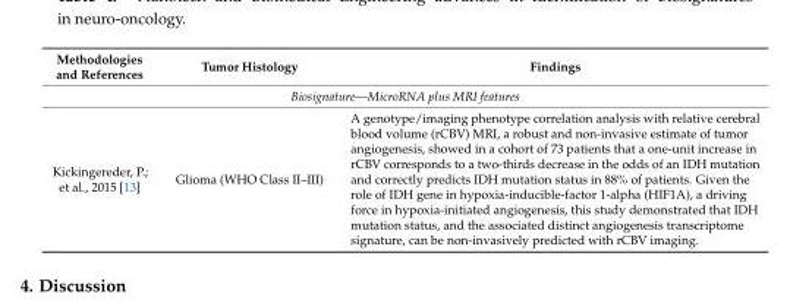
<table><thead><tr><td>Methodologies and References</td><td>Tumor Histology</td><td>Findings</td></tr></thead><tbody><tr><td colspan="3">Biosignature—MicroRNA plus MRI features</td></tr><tr><td>Kickingereder, P.; et al., 2015 [13]</td><td>Glioma (WHO Class II–III)</td><td>A genotype/imaging phenotype correlation analysis with relative cerebral blood volume (rCBV) MRI, a robust and non-invasive estimate of tumor angiogenesis, showed in a cohort of 73 patients that a one-unit increase in rCBV corresponds to a two-thirds decrease in the odds of an IDH mutation and correctly predicts IDH mutation status in 88% of patients. Given the role of IDH gene in hypoxia-inducible-factor 1-alpha (HIF1A), a driving force in hypoxia-initiated angiogenesis, this study demonstrated that IDH mutation status, and the associated distinct angiogenesis transcriptome signature, can be non-invasively predicted with rCBV imaging.</td></tr></tbody></table>